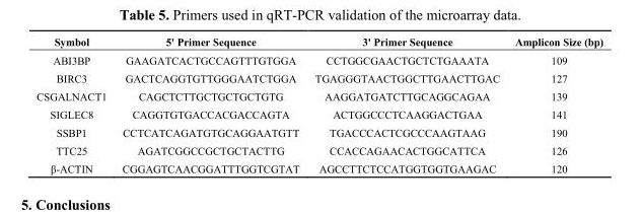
<table><thead><tr><td>Symbol</td><td>5&#x27; Primer Sequence</td><td>3&#x27; Primer Sequence</td><td>Amplicon Size (bp)</td></tr></thead><tbody><tr><td>ABI3BP</td><td>GAAGATCACTGCCAGTTTGTGGA</td><td>CCTGGCGAACTGCTCTGAAATA</td><td>109</td></tr><tr><td>BIRC3</td><td>GACTCAGGTGTTGGGAATCTGGA</td><td>TGAGGGTAACTGGCTTGAACTTGAC</td><td>127</td></tr><tr><td>CSGALNACT1</td><td>CAGCTCTTGCTGCTGCTGTG</td><td>AAGGATGATCTTGCAGGCAGAA</td><td>139</td></tr><tr><td>SIGLEC8</td><td>CAGGTGTGACCACGACCAGTA</td><td>ACTGGCCCTCAAGGACTGAA</td><td>141</td></tr><tr><td>SSBP1</td><td>CCTCATCAGATGTGCAGGAATGTT</td><td>TGACCCACTCGCCCAAGTAAG</td><td>190</td></tr><tr><td>TTC25</td><td>AGATCGGCCGCTGCTACTTG</td><td>CCACCAGAACACTGGCATTCA</td><td>126</td></tr><tr><td>β-ACTIN</td><td>CGGAGTCAACGGATTTGGTCGTAT</td><td>AGCCTTCTCCATGGTGGTGAAGAC</td><td>120</td></tr></tbody></table>